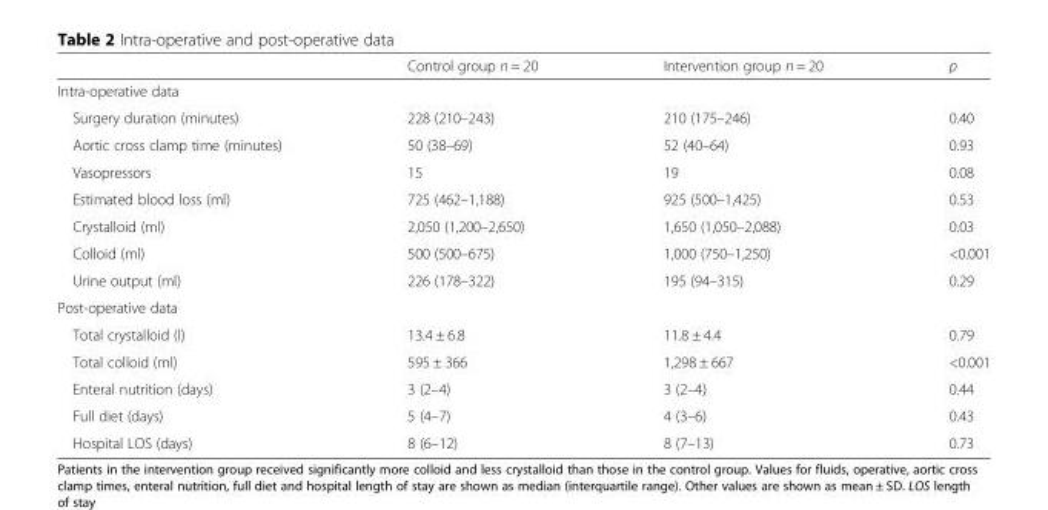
<table><thead><tr><td></td><td>Control group n = 20</td><td>Intervention group n = 20</td><td>p</td></tr></thead><tbody><tr><td colspan="4">Intra-operative data</td></tr><tr><td>Surgery duration (minutes)</td><td>228 (210–243)</td><td>210 (175–246)</td><td>0.40</td></tr><tr><td>Aortic cross clamp time (minutes)</td><td>50 (38–69)</td><td>52 (40–64)</td><td>0.93</td></tr><tr><td>Vasopressors</td><td>15</td><td>19</td><td>0.08</td></tr><tr><td>Estimated blood loss (ml)</td><td>725 (462–1,188)</td><td>925 (500–1,425)</td><td>0.53</td></tr><tr><td>Crystalloid (ml)</td><td>2,050 (1,200–2,650)</td><td>1,650 (1,050–2,088)</td><td>0.03</td></tr><tr><td>Colloid (ml)</td><td>500 (500–675)</td><td>1,000 (750–1,250)</td><td>&lt;0.001</td></tr><tr><td>Urine output (ml)</td><td>226 (178–322)</td><td>195 (94–315)</td><td>0.29</td></tr><tr><td colspan="4">Post-operative data</td></tr><tr><td>Total crystalloid (l)</td><td>13.4 ± 6.8</td><td>11.8 ± 4.4</td><td>0.79</td></tr><tr><td>Total colloid (ml)</td><td>595 ± 366</td><td>1,298 ± 667</td><td>&lt;0.001</td></tr><tr><td>Enteral nutrition (days)</td><td>3 (2–4)</td><td>3 (2–4)</td><td>0.44</td></tr><tr><td>Full diet (days)</td><td>5 (4–7)</td><td>4 (3–6)</td><td>0.43</td></tr><tr><td>Hospital LOS (days)</td><td>8 (6–12)</td><td>8 (7–13)</td><td>0.73</td></tr></tbody></table>